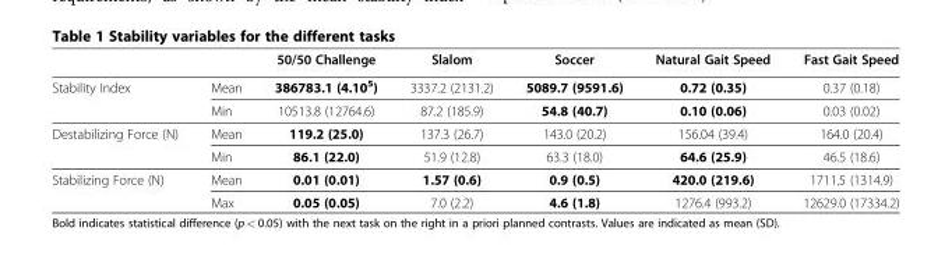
<table><thead><tr><td></td><td></td><td>50/50 Challenge</td><td>Slalom</td><td>Soccer</td><td>Natural Gait Speed</td><td>Fast Gait Speed</td></tr></thead><tbody><tr><td rowspan="2">Stability Index</td><td>Mean</td><td>386783.1 (4.10<sup>5</sup>)</td><td>3337.2 (2131.2)</td><td>5089.7 (9591.6)</td><td>0.72 (0.35)</td><td>0.37 (0.18)</td></tr><tr><td>Min</td><td>10513.8 (12764.6)</td><td>87.2 (185.9)</td><td>54.8 (40.7)</td><td>0.10 (0.06)</td><td>0.03 (0.02)</td></tr><tr><td rowspan="2">Destabilizing Force (N)</td><td>Mean</td><td>119.2 (25.0)</td><td>137.3 (26.7)</td><td>143.0 (20.2)</td><td>156.04 (39.4)</td><td>164.0 (20.4)</td></tr><tr><td>Min</td><td>86.1 (22.0)</td><td>51.9 (12.8)</td><td>63.3 (18.0)</td><td>64.6 (25.9)</td><td>46.5 (18.6)</td></tr><tr><td rowspan="2">Stabilizing Force (N)</td><td>Mean</td><td>0.01 (0.01)</td><td>1.57 (0.6)</td><td>0.9 (0.5)</td><td>420.0 (219.6)</td><td>1711.5 (1314.9)</td></tr><tr><td>Max</td><td>0.05 (0.05)</td><td>7.0 (2.2)</td><td>4.6 (1.8)</td><td>1276.4 (993.2)</td><td>12629.0 (17334.2)</td></tr></tbody></table>